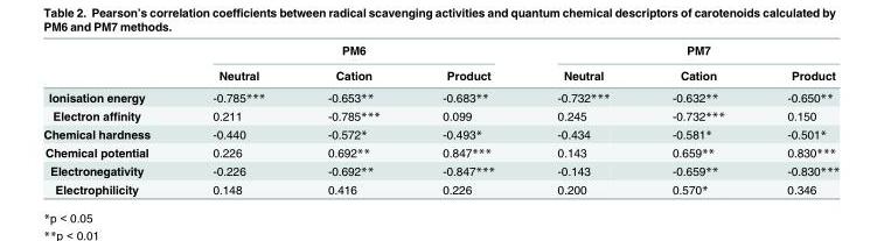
<table><thead><tr><td rowspan="2"></td><td colspan="3">PM6</td><td colspan="3">PM7</td></tr><tr><td>Neutral</td><td>Cation</td><td>Product</td><td>Neutral</td><td>Cation</td><td>Product</td></tr></thead><tbody><tr><td>Ionisation energy</td><td>-0.785***</td><td>-0.653**</td><td>-0.683**</td><td>-0.732***</td><td>-0.632**</td><td>-0.650**</td></tr><tr><td>Electron affinity</td><td>0.211</td><td>-0.785***</td><td>0.099</td><td>0.245</td><td>-0.732***</td><td>0.150</td></tr><tr><td>Chemical hardness</td><td>-0.440</td><td>-0.572*</td><td>-0.493*</td><td>-0.434</td><td>-0.581*</td><td>-0.501*</td></tr><tr><td>Chemical potential</td><td>0.226</td><td>0.692**</td><td>0.847***</td><td>0.143</td><td>0.659**</td><td>0.830***</td></tr><tr><td>Electronegativity</td><td>-0.226</td><td>-0.692**</td><td>-0.847***</td><td>-0.143</td><td>-0.659**</td><td>-0.830***</td></tr><tr><td>Electrophilicity</td><td>0.148</td><td>0.416</td><td>0.226</td><td>0.200</td><td>0.570*</td><td>0.346</td></tr></tbody></table>